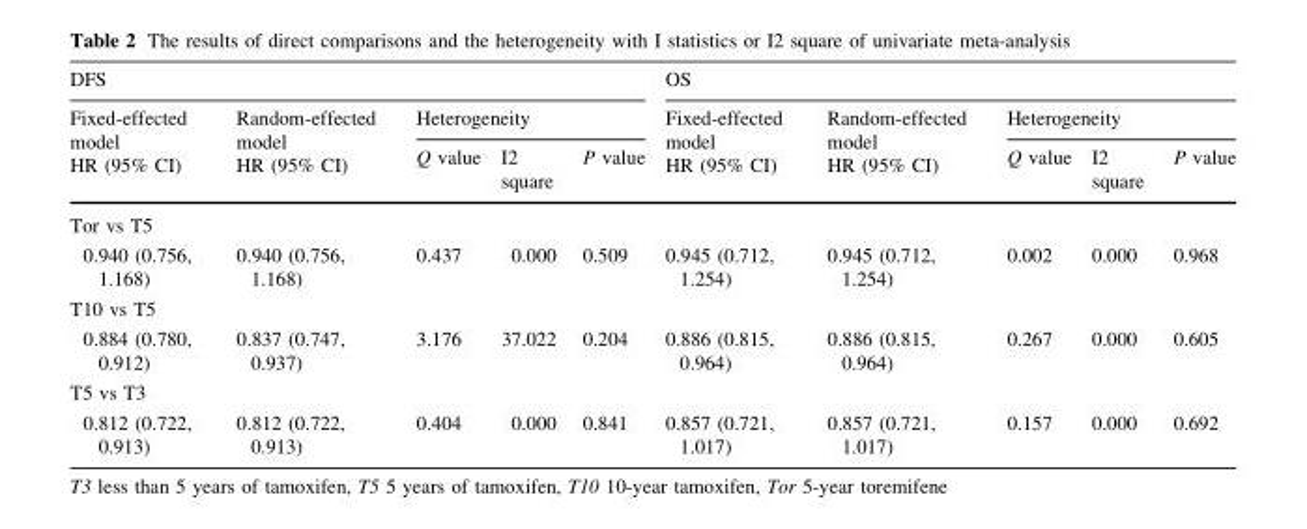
<table><thead><tr><td colspan="5">DFS</td><td colspan="5">OS</td></tr><tr><td rowspan="2">Fixed-effected model HR (95% CI)</td><td rowspan="2">Random-effected model HR (95% CI)</td><td colspan="3">Heterogeneity</td><td rowspan="2">Fixed-effected model HR (95% CI)</td><td rowspan="2">Random-effected model HR (95% CI)</td><td colspan="3">Heterogeneity</td></tr><tr><td>Q value</td><td>I2 square</td><td>P value</td><td>Q value</td><td>I2 square</td><td>P value</td></tr></thead><tbody><tr><td colspan="10">Tor vs T5</td></tr><tr><td>0.940 (0.756, 1.168)</td><td>0.940 (0.756, 1.168)</td><td>0.437</td><td>0.000</td><td>0.509</td><td>0.945 (0.712, 1.254)</td><td>0.945 (0.712, 1.254)</td><td>0.002</td><td>0.000</td><td>0.968</td></tr><tr><td colspan="10">T10 vs T5</td></tr><tr><td>0.884 (0.780, 0.912)</td><td>0.837 (0.747, 0.937)</td><td>3.176</td><td>37.022</td><td>0.204</td><td>0.886 (0.815, 0.964)</td><td>0.886 (0.815, 0.964)</td><td>0.267</td><td>0.000</td><td>0.605</td></tr><tr><td colspan="10">T5 vs T3</td></tr><tr><td>0.812 (0.722, 0.913)</td><td>0.812 (0.722, 0.913)</td><td>0.404</td><td>0.000</td><td>0.841</td><td>0.857 (0.721, 1.017)</td><td>0.857 (0.721, 1.017)</td><td>0.157</td><td>0.000</td><td>0.692</td></tr></tbody></table>